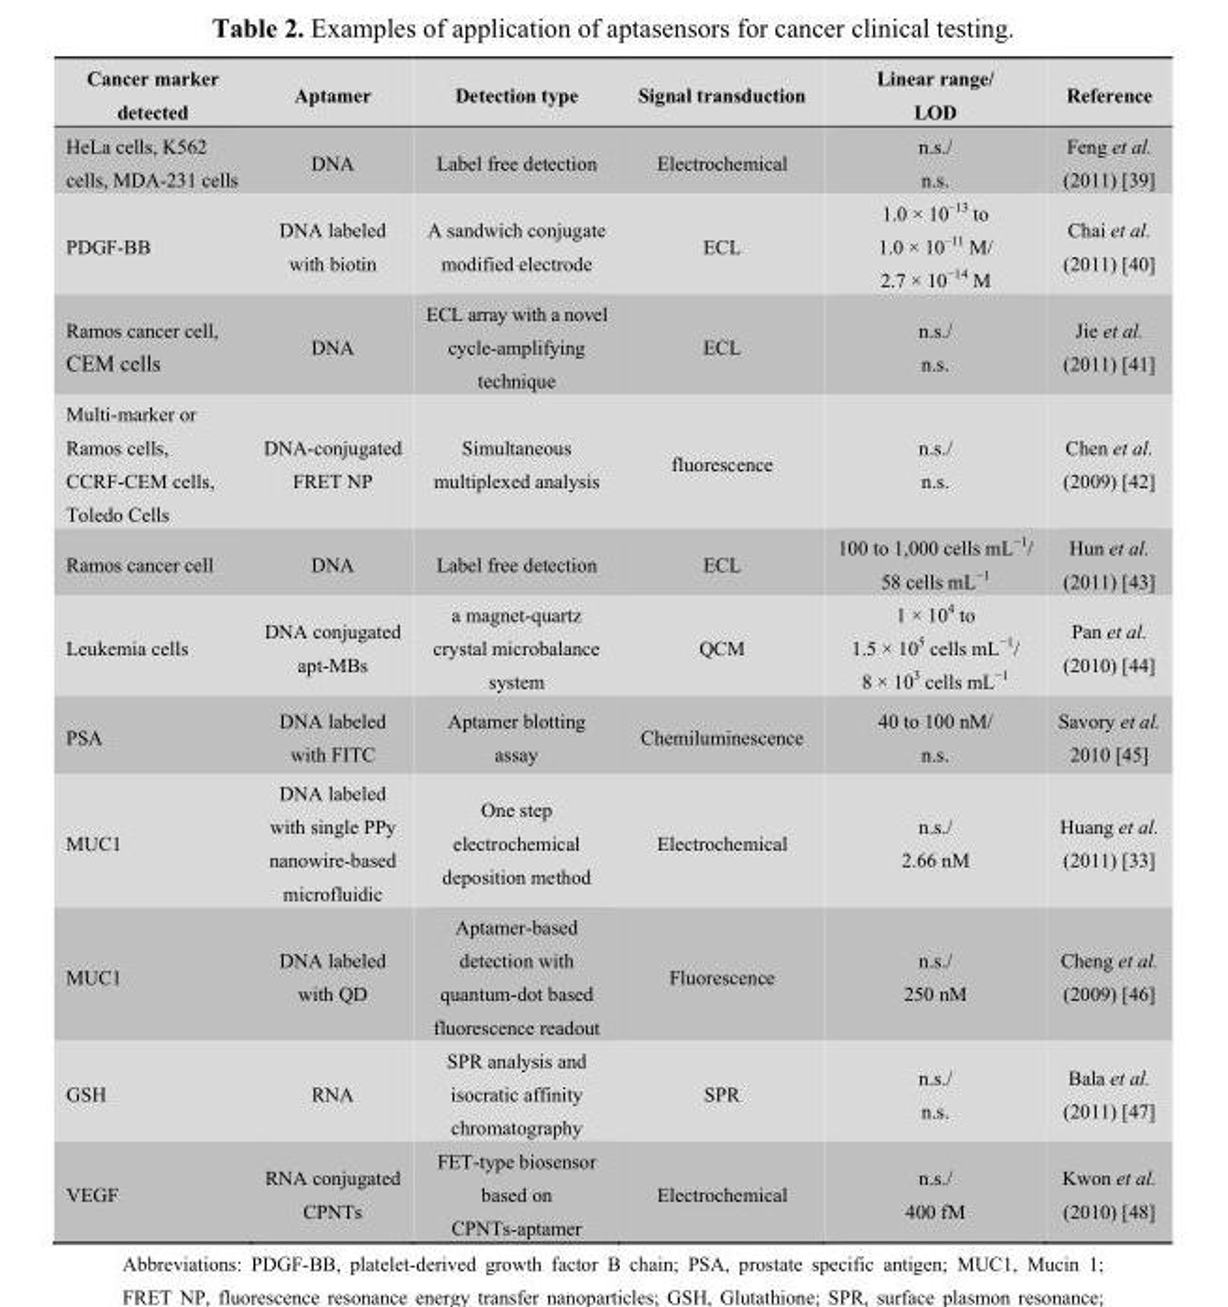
<table><thead><tr><td>Cancer marker detected</td><td>Aptamer</td><td>Detection type</td><td>Signal transduction</td><td>Linear range/ LOD</td><td>Reference</td></tr></thead><tbody><tr><td>HeLa cells, K562 cells, MDA-231 cells</td><td>DNA</td><td>Label free detection</td><td>Electrochemical</td><td>n.s./ n.s.</td><td>Feng et al. (2011) [39]</td></tr><tr><td>PDGF-BB</td><td>DNA labeled with biotin</td><td>A sandwich conjugate modified electrode</td><td>ECL</td><td>1.0 × 10<sup>−13</sup> to 1.0 × 10<sup>−11</sup> M/ 2.7 × 10<sup>−14</sup> M</td><td>Chai et al. (2011) [40]</td></tr><tr><td>Ramos cancer cell, CEM cells</td><td>DNA</td><td>ECL array with a novel cycle-amplifying technique</td><td>ECL</td><td>n.s./ n.s.</td><td>Jie et al. (2011) [41]</td></tr><tr><td>Multi-marker or Ramos cells, CCRF-CEM cells, Toledo Cells</td><td>DNA-conjugated FRET NP</td><td>Simultaneous multiplexed analysis</td><td>fluorescence</td><td>n.s./ n.s.</td><td>Chen et al. (2009) [42]</td></tr><tr><td>Ramos cancer cell</td><td>DNA</td><td>Label free detection</td><td>ECL</td><td>100 to 1,000 cells mL<sup>−1</sup>/ 58 cells mL<sup>−1</sup></td><td>Hun et al. (2011) [43]</td></tr><tr><td>Leukemia cells</td><td>DNA conjugated apt-MBs</td><td>a magnet-quartz crystal microbalance system</td><td>QCM</td><td>1 × 10<sup>4</sup> to 1.5 × 10<sup>5</sup> cells mL<sup>−1</sup>/ 8 × 10<sup>3</sup> cells mL<sup>−1</sup></td><td>Pan et al. (2010) [44]</td></tr><tr><td>PSA</td><td>DNA labeled with FITC</td><td>Aptamer blotting assay</td><td>Chemiluminescence</td><td>40 to 100 nM/ n.s.</td><td>Savory et al. 2010 [45]</td></tr><tr><td>MUC1</td><td>DNA labeled with single PPy nanowire-based microfluidic</td><td>One step electrochemical deposition method</td><td>Electrochemical</td><td>n.s./ 2.66 nM</td><td>Huang et al. (2011) [33]</td></tr><tr><td>MUC1</td><td>DNA labeled with QD</td><td>Aptamer-based detection with quantum-dot based fluorescence readout</td><td>Fluorescence</td><td>n.s./ 250 nM</td><td>Cheng et al. (2009) [46]</td></tr><tr><td>GSH</td><td>RNA</td><td>SPR analysis and isocratic affinity chromatography</td><td>SPR</td><td>n.s./ n.s.</td><td>Bala et al. (2011) [47]</td></tr><tr><td>VEGF</td><td>RNA conjugated CPNTs</td><td>FET-type biosensor based on CPNTs-aptamer</td><td>Electrochemical</td><td>n.s./ 400 fM</td><td>Kwon et al. (2010) [48]</td></tr></tbody></table>